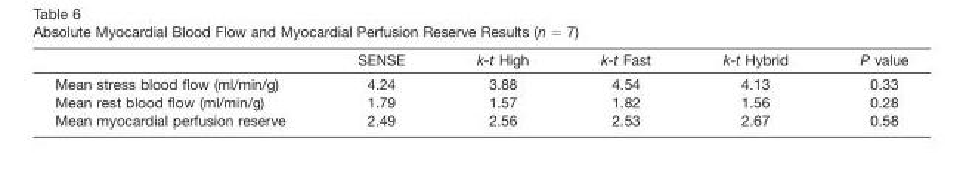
<table><thead><tr><td></td><td>SENSE</td><td>k-t High</td><td>k-t Fast</td><td>k-t Hybrid</td><td>P value</td></tr></thead><tbody><tr><td>Mean stress blood flow (ml/min/g)</td><td>4.24</td><td>3.88</td><td>4.54</td><td>4.13</td><td>0.33</td></tr><tr><td>Mean rest blood flow (ml/min/g)</td><td>1.79</td><td>1.57</td><td>1.82</td><td>1.56</td><td>0.28</td></tr><tr><td>Mean myocardial perfusion reserve</td><td>2.49</td><td>2.56</td><td>2.53</td><td>2.67</td><td>0.58</td></tr></tbody></table>